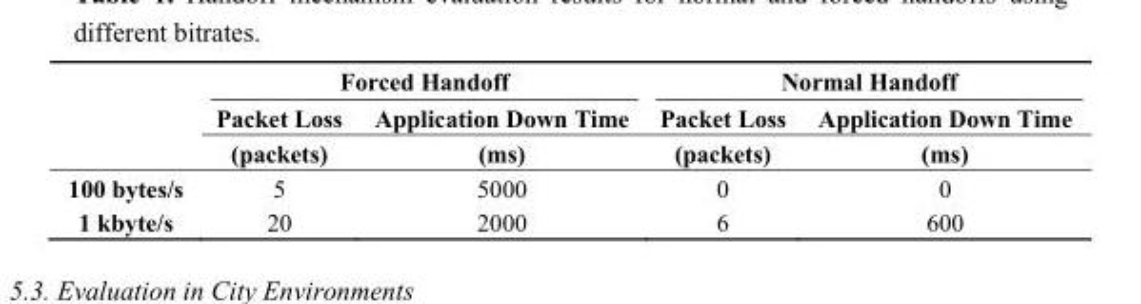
<table><thead><tr><td rowspan="3"></td><td colspan="2">Forced Handoff</td><td colspan="2">Normal Handoff</td></tr><tr><td rowspan="2">Packet Loss (packets)</td><td rowspan="2">Application Down Time (ms)</td><td rowspan="2">Packet Loss (packets)</td><td rowspan="2">Application Down Time (ms)</td></tr><tr></tr></thead><tbody><tr><td>100 bytes/s</td><td>5</td><td>5000</td><td>0</td><td>0</td></tr><tr><td>1 kbyte/s</td><td>20</td><td>2000</td><td>6</td><td>600</td></tr></tbody></table>